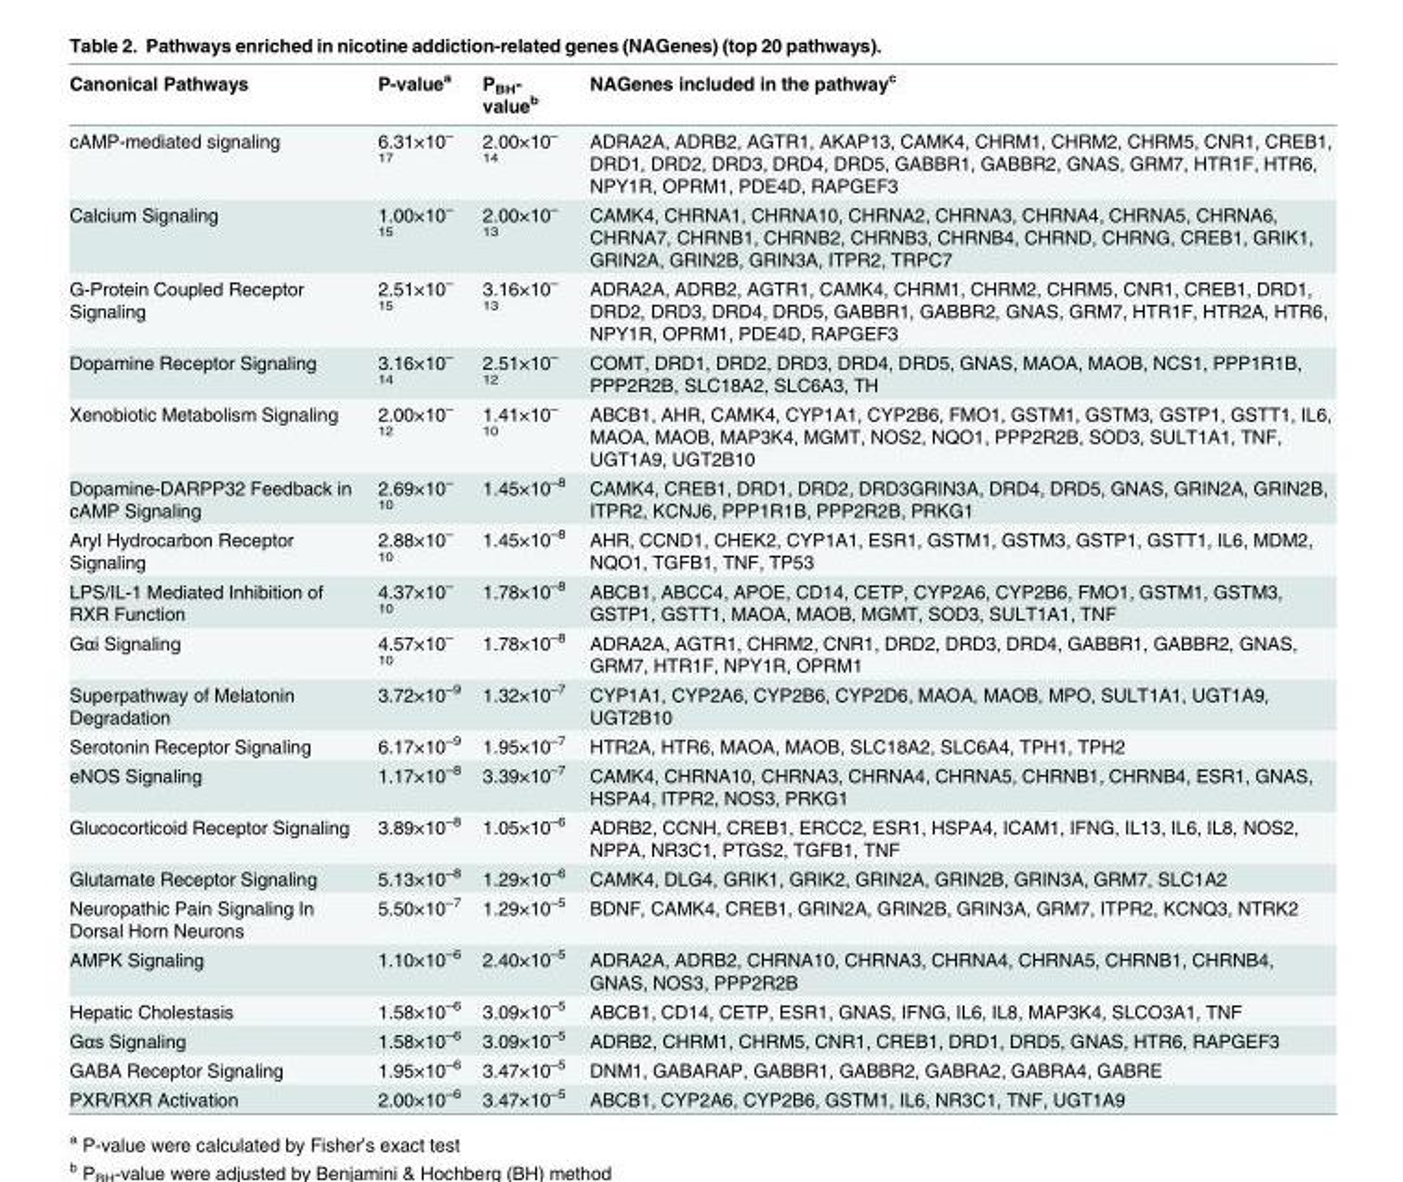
<table><thead><tr><td>Canonical Pathways</td><td>P-value<sup>a</sup></td><td>P<sub>BH</sub>- value<sup>b</sup></td><td>NAGenes included in the pathway<sup>c</sup></td></tr></thead><tbody><tr><td>cAMP-mediated signaling</td><td>6.31×10<sup>– 17</sup></td><td>2.00×10<sup>– 14</sup></td><td>ADRA2A, ADRB2, AGTR1, AKAP13, CAMK4, CHRM1, CHRM2, CHRM5, CNR1, CREB1, DRD1, DRD2, DRD3, DRD4, DRD5, GABBR1, GABBR2, GNAS, GRM7, HTR1F, HTR6, NPY1R, OPRM1, PDE4D, RAPGEF3</td></tr><tr><td>Calcium Signaling</td><td>1.00×10<sup>– 15</sup></td><td>2.00×10<sup>– 13</sup></td><td>CAMK4, CHRNA1, CHRNA10, CHRNA2, CHRNA3, CHRNA4, CHRNA5, CHRNA6, CHRNA7, CHRNB1, CHRNB2, CHRNB3, CHRNB4, CHRND, CHRNG, CREB1, GRIK1, GRIN2A, GRIN2B, GRIN3A, ITPR2, TRPC7</td></tr><tr><td>G-Protein Coupled Receptor Signaling</td><td>2.51×10<sup>– 15</sup></td><td>3.16×10<sup>– 13</sup></td><td>ADRA2A, ADRB2, AGTR1, CAMK4, CHRM1, CHRM2, CHRM5, CNR1, CREB1, DRD1, DRD2, DRD3, DRD4, DRD5, GABBR1, GABBR2, GNAS, GRM7, HTR1F, HTR2A, HTR6, NPY1R, OPRM1, PDE4D, RAPGEF3</td></tr><tr><td>Dopamine Receptor Signaling</td><td>3.16×10<sup>– 14</sup></td><td>2.51×10<sup>– 12</sup></td><td>COMT, DRD1, DRD2, DRD3, DRD4, DRD5, GNAS, MAOA, MAOB, NCS1, PPP1R1B, PPP2R2B, SLC18A2, SLC6A3, TH</td></tr><tr><td>Xenobiotic Metabolism Signaling</td><td>2.00×10<sup>– 12</sup></td><td>1.41×10<sup>– 10</sup></td><td>ABCB1, AHR, CAMK4, CYP1A1, CYP2B6, FMO1, GSTM1, GSTM3, GSTP1, GSTT1, IL6, MAOA, MAOB, MAP3K4, MGMT, NOS2, NQO1, PPP2R2B, SOD3, SULT1A1, TNF, UGT1A9, UGT2B10</td></tr><tr><td>Dopamine-DARPP32 Feedback in cAMP Signaling</td><td>2.69×10<sup>– 10</sup></td><td>1.45×10<sup>–8</sup></td><td>CAMK4, CREB1, DRD1, DRD2, DRD3GRIN3A, DRD4, DRD5, GNAS, GRIN2A, GRIN2B, ITPR2, KCNJ6, PPP1R1B, PPP2R2B, PRKG1</td></tr><tr><td>Aryl Hydrocarbon Receptor Signaling</td><td>2.88×10<sup>– 10</sup></td><td>1.45×10<sup>–8</sup></td><td>AHR, CCND1, CHEK2, CYP1A1, ESR1, GSTM1, GSTM3, GSTP1, GSTT1, IL6, MDM2, NQO1, TGFB1, TNF, TP53</td></tr><tr><td>LPS/IL-1 Mediated Inhibition of RXR Function</td><td>4.37×10<sup>– 10</sup></td><td>1.78×10<sup>–8</sup></td><td>ABCB1, ABCC4, APOE, CD14, CETP, CYP2A6, CYP2B6, FMO1, GSTM1, GSTM3, GSTP1, GSTT1, MAOA, MAOB, MGMT, SOD3, SULT1A1, TNF</td></tr><tr><td>Gαi Signaling</td><td>4.57×10<sup>– 10</sup></td><td>1.78×10<sup>–8</sup></td><td>ADRA2A, AGTR1, CHRM2, CNR1, DRD2, DRD3, DRD4, GABBR1, GABBR2, GNAS, GRM7, HTR1F, NPY1R, OPRM1</td></tr><tr><td>Superpathway of Melatonin Degradation</td><td>3.72×10<sup>–9</sup></td><td>1.32×10<sup>–7</sup></td><td>CYP1A1, CYP2A6, CYP2B6, CYP2D6, MAOA, MAOB, MPO, SULT1A1, UGT1A9, UGT2B10</td></tr><tr><td>Serotonin Receptor Signaling</td><td>6.17×10<sup>–9</sup></td><td>1.95×10<sup>–7</sup></td><td>HTR2A, HTR6, MAOA, MAOB, SLC18A2, SLC6A4, TPH1, TPH2</td></tr><tr><td>eNOS Signaling</td><td>1.17×10<sup>–8</sup></td><td>3.39×10<sup>–7</sup></td><td>CAMK4, CHRNA10, CHRNA3, CHRNA4, CHRNA5, CHRNB1, CHRNB4, ESR1, GNAS, HSPA4, ITPR2, NOS3, PRKG1</td></tr><tr><td>Glucocorticoid Receptor Signaling</td><td>3.89×10<sup>–8</sup></td><td>1.05×10<sup>–6</sup></td><td>ADRB2, CCNH, CREB1, ERCC2, ESR1, HSPA4, ICAM1, IFNG, IL13, IL6, IL8, NOS2, NPPA, NR3C1, PTGS2, TGFB1, TNF</td></tr><tr><td>Glutamate Receptor Signaling</td><td>5.13×10<sup>–8</sup></td><td>1.29×10<sup>–6</sup></td><td>CAMK4, DLG4, GRIK1, GRIK2, GRIN2A, GRIN2B, GRIN3A, GRM7, SLC1A2</td></tr><tr><td>Neuropathic Pain Signaling In Dorsal Horn Neurons</td><td>5.50×10<sup>–7</sup></td><td>1.29×10<sup>–5</sup></td><td>BDNF, CAMK4, CREB1, GRIN2A, GRIN2B, GRIN3A, GRM7, ITPR2, KCNQ3, NTRK2</td></tr><tr><td>AMPK Signaling</td><td>1.10×10<sup>–6</sup></td><td>2.40×10<sup>–5</sup></td><td>ADRA2A, ADRB2, CHRNA10, CHRNA3, CHRNA4, CHRNA5, CHRNB1, CHRNB4, GNAS, NOS3, PPP2R2B</td></tr><tr><td>Hepatic Cholestasis</td><td>1.58×10<sup>–6</sup></td><td>3.09×10<sup>–5</sup></td><td>ABCB1, CD14, CETP, ESR1, GNAS, IFNG, IL6, IL8, MAP3K4, SLCO3A1, TNF</td></tr><tr><td>Gαs Signaling</td><td>1.58×10<sup>–6</sup></td><td>3.09×10<sup>–5</sup></td><td>ADRB2, CHRM1, CHRM5, CNR1, CREB1, DRD1, DRD5, GNAS, HTR6, RAPGEF3</td></tr><tr><td>GABA Receptor Signaling</td><td>1.95×10<sup>–6</sup></td><td>3.47×10<sup>–5</sup></td><td>DNM1, GABARAP, GABBR1, GABBR2, GABRA2, GABRA4, GABRE</td></tr><tr><td>PXR/RXR Activation</td><td>2.00×10<sup>–6</sup></td><td>3.47×10<sup>–5</sup></td><td>ABCB1, CYP2A6, CYP2B6, GSTM1, IL6, NR3C1, TNF, UGT1A9</td></tr></tbody></table>